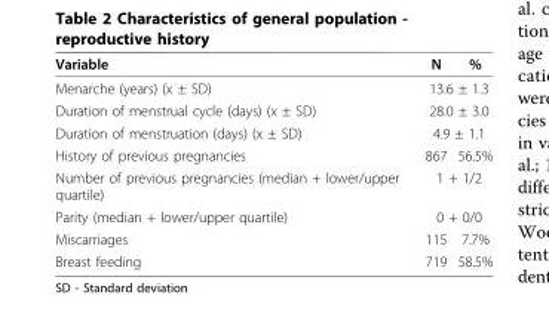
<table><thead><tr><td>Variable</td><td>N</td><td>%</td></tr></thead><tbody><tr><td>Menarche (years) (x ± SD)</td><td colspan="2">13.6 ± 1.3</td></tr><tr><td>Duration of menstrual cycle (days) (x ± SD)</td><td colspan="2">28.0 ± 3.0</td></tr><tr><td>Duration of menstruation (days) (x ± SD)</td><td colspan="2">4.9 ± 1.1</td></tr><tr><td>History of previous pregnancies</td><td>867</td><td>56.5%</td></tr><tr><td>Number of previous pregnancies (median + lower/upper quartile)</td><td colspan="2">1 + 1/2</td></tr><tr><td>Parity (median + lower/upper quartile)</td><td colspan="2">0 + 0/0</td></tr><tr><td>Miscarriages</td><td>115</td><td>7.7%</td></tr><tr><td>Breast feeding</td><td>719</td><td>58.5%</td></tr></tbody></table>